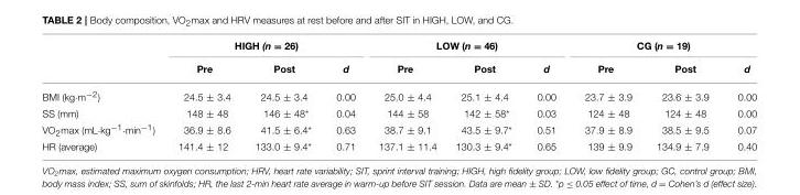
<table><thead><tr><td rowspan="2"></td><td colspan="3">HIGH (n = 26)</td><td colspan="3">LOW (n = 46)</td><td colspan="3">CG (n = 19)</td></tr><tr><td>Pre</td><td>Post</td><td>d</td><td>Pre</td><td>Post</td><td>d</td><td>Pre</td><td>Post</td><td>d</td></tr></thead><tbody><tr><td>BMI (kg·m<sup>−2</sup>)</td><td>24.5 ± 3.4</td><td>24.5 ± 3.4</td><td>0.00</td><td>25.0 ± 4.4</td><td>25.1 ± 4.4</td><td>0.00</td><td>23.7 ± 3.9</td><td>23.6 ± 3.9</td><td>0.00</td></tr><tr><td>SS (mm)</td><td>148 ± 48</td><td>146 ± 48*</td><td>0.04</td><td>144 ± 58</td><td>142 ± 58*</td><td>0.03</td><td>124 ± 48</td><td>124 ± 48</td><td>0.00</td></tr><tr><td>VO<sub>2</sub>max (mL·kg<sup>−1</sup>·min<sup>−1</sup>)</td><td>36.9 ± 8.6</td><td>41.5 ± 6.4*</td><td>0.63</td><td>38.7 ± 9.1</td><td>43.5 ± 9.7*</td><td>0.51</td><td>37.9 ± 8.9</td><td>38.5 ± 9.5</td><td>0.07</td></tr><tr><td>HR (average)</td><td>141.4 ± 12</td><td>133.0 ± 9.4*</td><td>0.71</td><td>137.1 ± 11.4</td><td>130.3 ± 9.4*</td><td>0.65</td><td>139 ± 9.9</td><td>134.9 ± 7.9</td><td>0.40</td></tr></tbody></table>